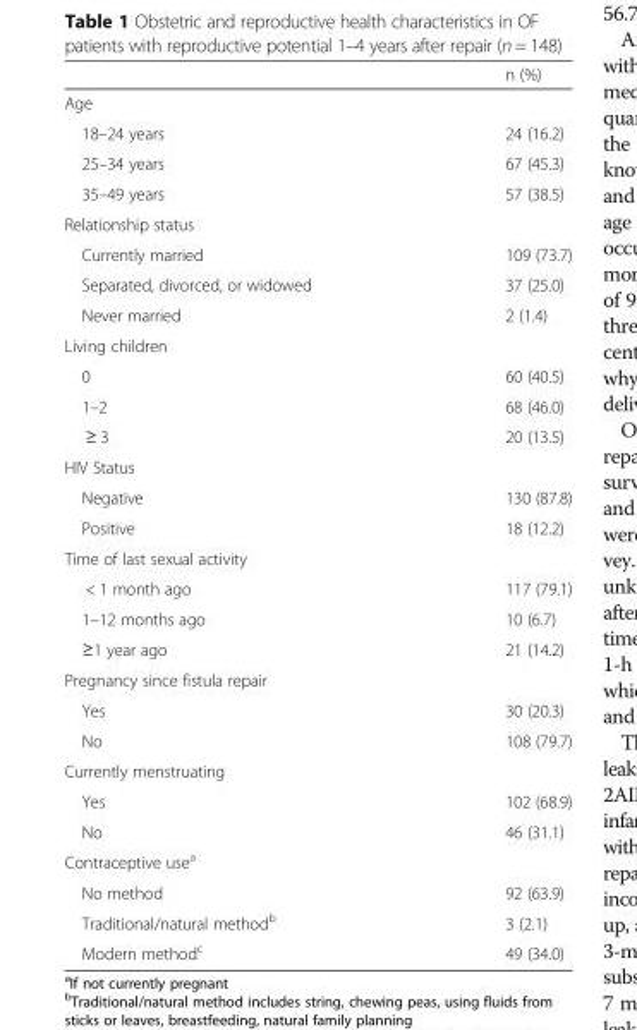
<table><thead><tr><td></td><td>n (%)</td></tr></thead><tbody><tr><td colspan="2">Age</td></tr><tr><td>18–24 years</td><td>24 (16.2)</td></tr><tr><td>25–34 years</td><td>67 (45.3)</td></tr><tr><td>35–49 years</td><td>57 (38.5)</td></tr><tr><td colspan="2">Relationship status</td></tr><tr><td>Currently married</td><td>109 (73.7)</td></tr><tr><td>Separated, divorced, or widowed</td><td>37 (25.0)</td></tr><tr><td>Never married</td><td>2 (1.4)</td></tr><tr><td colspan="2">Living children</td></tr><tr><td>0</td><td>60 (40.5)</td></tr><tr><td>1–2</td><td>68 (46.0)</td></tr><tr><td>≥ 3</td><td>20 (13.5)</td></tr><tr><td colspan="2">HIV Status</td></tr><tr><td>Negative</td><td>130 (87.8)</td></tr><tr><td>Positive</td><td>18 (12.2)</td></tr><tr><td colspan="2">Time of last sexual activity</td></tr><tr><td>&lt; 1 month ago</td><td>117 (79.1)</td></tr><tr><td>1–12 months ago</td><td>10 (6.7)</td></tr><tr><td>≥1 year ago</td><td>21 (14.2)</td></tr><tr><td colspan="2">Pregnancy since fistula repair</td></tr><tr><td>Yes</td><td>30 (20.3)</td></tr><tr><td>No</td><td>108 (79.7)</td></tr><tr><td colspan="2">Currently menstruating</td></tr><tr><td>Yes</td><td>102 (68.9)</td></tr><tr><td>No</td><td>46 (31.1)</td></tr><tr><td colspan="2">Contraceptive use<sup>a</sup></td></tr><tr><td>No method</td><td>92 (63.9)</td></tr><tr><td>Traditional/natural method<sup>b</sup></td><td>3 (2.1)</td></tr><tr><td>Modern method<sup>c</sup></td><td>49 (34.0)</td></tr></tbody></table>